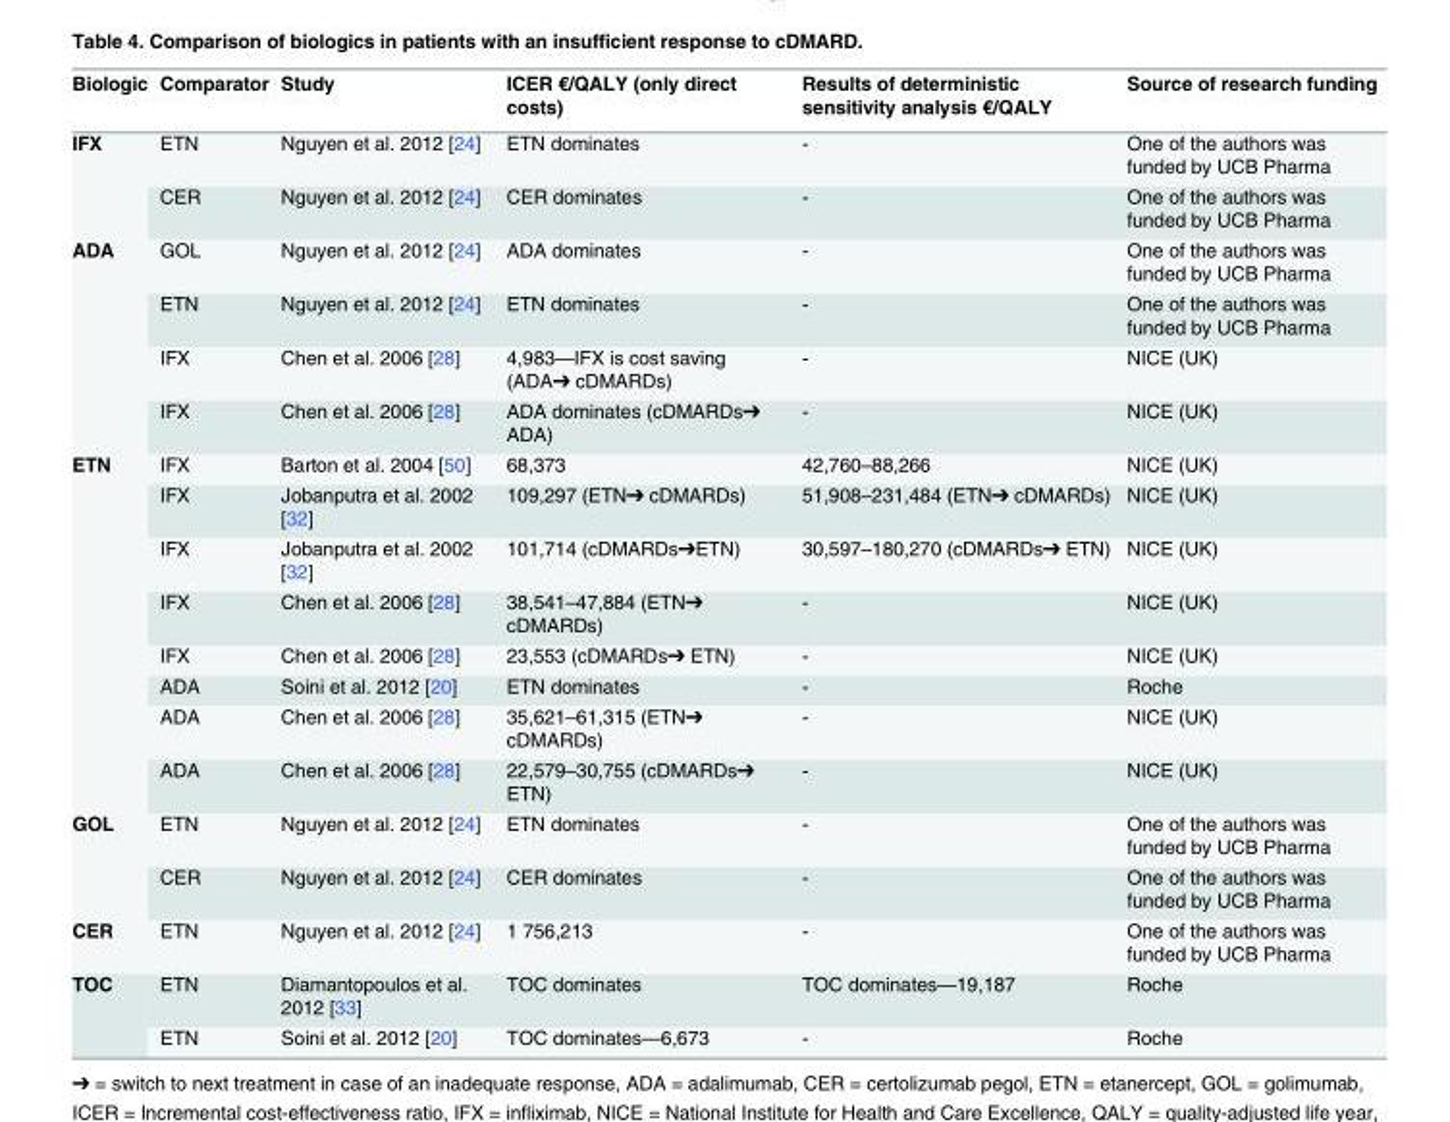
<table><thead><tr><td>Biologic</td><td>Comparator</td><td>Study</td><td>ICER €/QALY (only direct costs)</td><td>Results of deterministic sensitivity analysis €/QALY</td><td>Source of research funding</td></tr></thead><tbody><tr><td rowspan="2">IFX</td><td>ETN</td><td>Nguyen et al. 2012 [24]</td><td>ETN dominates</td><td>-</td><td>One of the authors was funded by UCB Pharma</td></tr><tr><td>CER</td><td>Nguyen et al. 2012 [24]</td><td>CER dominates</td><td>-</td><td>One of the authors was funded by UCB Pharma</td></tr><tr><td rowspan="4">ADA</td><td>GOL</td><td>Nguyen et al. 2012 [24]</td><td>ADA dominates</td><td>-</td><td>One of the authors was funded by UCB Pharma</td></tr><tr><td>ETN</td><td>Nguyen et al. 2012 [24]</td><td>ETN dominates</td><td>-</td><td>One of the authors was funded by UCB Pharma</td></tr><tr><td>IFX</td><td>Chen et al. 2006 [28]</td><td>4,983—IFX is cost saving (ADA➔ cDMARDs)</td><td>-</td><td>NICE (UK)</td></tr><tr><td>IFX</td><td>Chen et al. 2006 [28]</td><td>ADA dominates (cDMARDs➔ ADA)</td><td>-</td><td>NICE (UK)</td></tr><tr><td rowspan="8">ETN</td><td>IFX</td><td>Barton et al. 2004 [50]</td><td>68,373</td><td>42,760–88,266</td><td>NICE (UK)</td></tr><tr><td>IFX</td><td>Jobanputra et al. 2002 [32]</td><td>109,297 (ETN➔ cDMARDs)</td><td>51,908–231,484 (ETN➔ cDMARDs)</td><td>NICE (UK)</td></tr><tr><td>IFX</td><td>Jobanputra et al. 2002 [32]</td><td>101,714 (cDMARDs➔ETN)</td><td>30,597–180,270 (cDMARDs➔ ETN)</td><td>NICE (UK)</td></tr><tr><td>IFX</td><td>Chen et al. 2006 [28]</td><td>38,541–47,884 (ETN➔ cDMARDs)</td><td>-</td><td>NICE (UK)</td></tr><tr><td>IFX</td><td>Chen et al. 2006 [28]</td><td>23,553 (cDMARDs➔ ETN)</td><td>-</td><td>NICE (UK)</td></tr><tr><td>ADA</td><td>Soini et al. 2012 [20]</td><td>ETN dominates</td><td>-</td><td>Roche</td></tr><tr><td>ADA</td><td>Chen et al. 2006 [28]</td><td>35,621–61,315 (ETN➔ cDMARDs)</td><td>-</td><td>NICE (UK)</td></tr><tr><td>ADA</td><td>Chen et al. 2006 [28]</td><td>22,579–30,755 (cDMARDs➔ ETN)</td><td>-</td><td>NICE (UK)</td></tr><tr><td rowspan="2">GOL</td><td>ETN</td><td>Nguyen et al. 2012 [24]</td><td>ETN dominates</td><td>-</td><td>One of the authors was funded by UCB Pharma</td></tr><tr><td>CER</td><td>Nguyen et al. 2012 [24]</td><td>CER dominates</td><td>-</td><td>One of the authors was funded by UCB Pharma</td></tr><tr><td>CER</td><td>ETN</td><td>Nguyen et al. 2012 [24]</td><td>1 756,213</td><td>-</td><td>One of the authors was funded by UCB Pharma</td></tr><tr><td rowspan="2">TOC</td><td>ETN</td><td>Diamantopoulos et al. 2012 [33]</td><td>TOC dominates</td><td>TOC dominates—19,187</td><td>Roche</td></tr><tr><td>ETN</td><td>Soini et al. 2012 [20]</td><td>TOC dominates—6,673</td><td>-</td><td>Roche</td></tr></tbody></table>